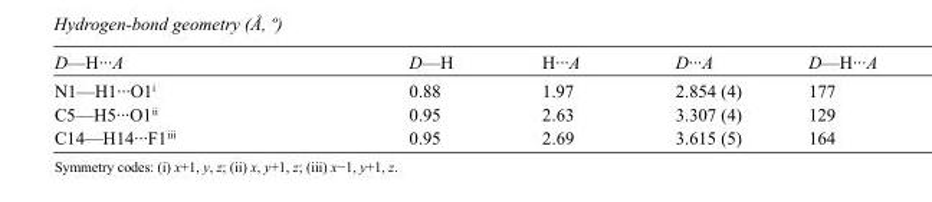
<table><tbody><tr><td>D—H···A</td><td>D—H</td><td>H···A</td><td>D···A</td><td>D—H···A</td></tr><tr><td>N1—H1···O1<sup>i</sup></td><td>0.88</td><td>1.97</td><td>2.854 (4)</td><td>177</td></tr><tr><td>C5—H5···O1<sup>ii</sup></td><td>0.95</td><td>2.63</td><td>3.307 (4)</td><td>129</td></tr><tr><td>C14—H14···F1<sup>iii</sup></td><td>0.95</td><td>2.69</td><td>3.615 (5)</td><td>164</td></tr></tbody></table>